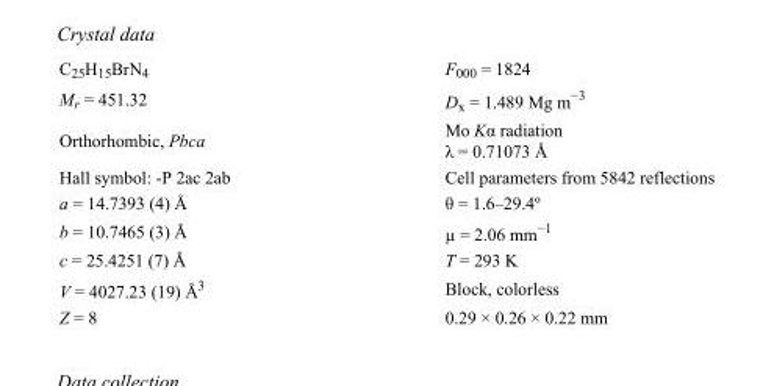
<table><tbody><tr><td>C<sub>25</sub>H<sub>15</sub>BrN<sub>4</sub></td><td>F000 = 1824</td></tr><tr><td>M<sub>r</sub> = 451.32</td><td>D<sub>x</sub> = 1.489 Mg m<sup>−3</sup></td></tr><tr><td>Orthorhombic, Pbca</td><td>Mo Kα radiation λ = 0.71073 Å</td></tr><tr><td>Hall symbol: -P 2ac 2ab</td><td>Cell parameters from 5842 reflections</td></tr><tr><td>a = 14.7393 (4) Å</td><td>θ = 1.6–29.4º</td></tr><tr><td>b = 10.7465 (3) Å</td><td>µ = 2.06 mm<sup>−1</sup></td></tr><tr><td>c = 25.4251 (7) Å</td><td>T = 293 K</td></tr><tr><td>V = 4027.23 (19) Å<sup>3</sup></td><td>Block, colorless</td></tr><tr><td>Z = 8</td><td>0.29 × 0.26 × 0.22 mm</td></tr></tbody></table>